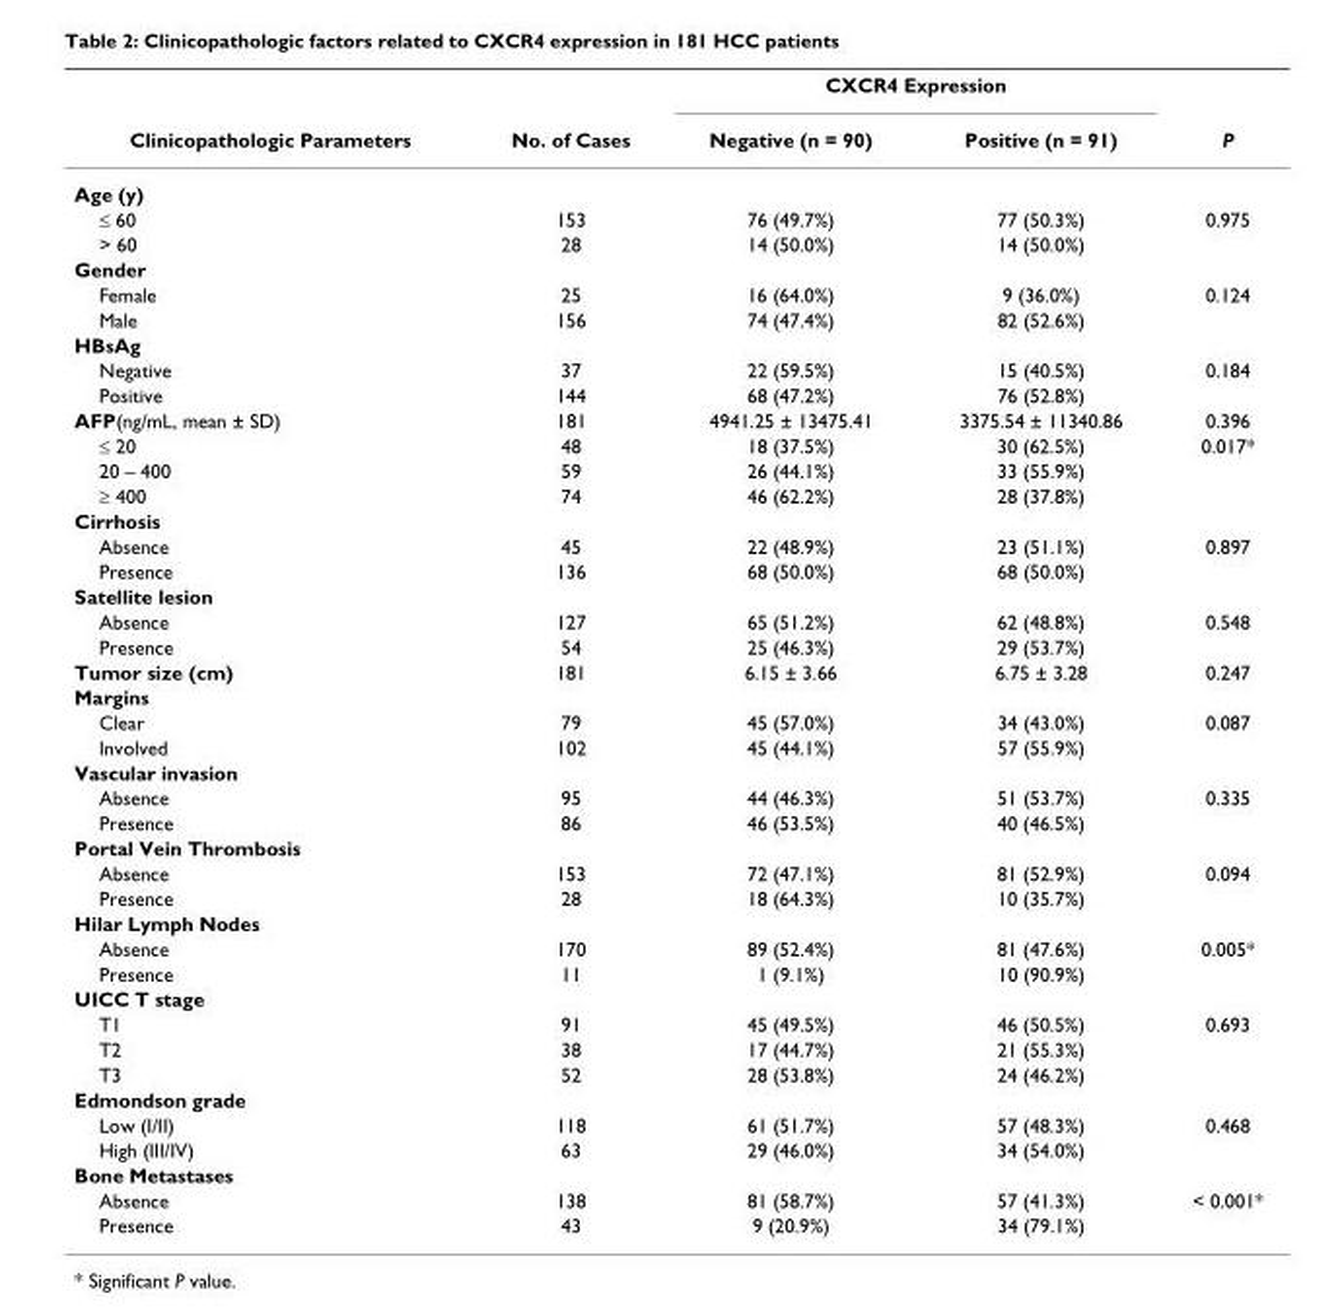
<table><thead><tr><td rowspan="2">Clinicopathologic Parameters</td><td rowspan="2">No. of Cases</td><td colspan="2">CXCR4 Expression</td><td rowspan="2">P</td></tr><tr><td>Negative (n = 90)</td><td>Positive (n = 91)</td></tr></thead><tbody><tr><td colspan="5">Age (y)</td></tr><tr><td>≤ 60</td><td>153</td><td>76 (49.7%)</td><td>77 (50.3%)</td><td>0.975</td></tr><tr><td>&gt; 60</td><td>28</td><td>14 (50.0%)</td><td>14 (50.0%)</td><td></td></tr><tr><td colspan="5">Gender</td></tr><tr><td>Female</td><td>25</td><td>16 (64.0%)</td><td>9 (36.0%)</td><td>0.124</td></tr><tr><td>Male</td><td>156</td><td>74 (47.4%)</td><td>82 (52.6%)</td><td></td></tr><tr><td colspan="5">HBsAg</td></tr><tr><td>Negative</td><td>37</td><td>22 (59.5%)</td><td>15 (40.5%)</td><td>0.184</td></tr><tr><td>Positive</td><td>144</td><td>68 (47.2%)</td><td>76 (52.8%)</td><td></td></tr><tr><td>AFP(ng/mL, mean ± SD)</td><td>181</td><td>4941.25 ± 13475.41</td><td>3375.54 ± 11340.86</td><td>0.396</td></tr><tr><td>≤ 20</td><td>48</td><td>18 (37.5%)</td><td>30 (62.5%)</td><td>0.017*</td></tr><tr><td>20 – 400</td><td>59</td><td>26 (44.1%)</td><td>33 (55.9%)</td><td></td></tr><tr><td>≥ 400</td><td>74</td><td>46 (62.2%)</td><td>28 (37.8%)</td><td></td></tr><tr><td colspan="5">Cirrhosis</td></tr><tr><td>Absence</td><td>45</td><td>22 (48.9%)</td><td>23 (51.1%)</td><td>0.897</td></tr><tr><td>Presence</td><td>136</td><td>68 (50.0%)</td><td>68 (50.0%)</td><td></td></tr><tr><td colspan="5">Satellite lesion</td></tr><tr><td>Absence</td><td>127</td><td>65 (51.2%)</td><td>62 (48.8%)</td><td>0.548</td></tr><tr><td>Presence</td><td>54</td><td>25 (46.3%)</td><td>29 (53.7%)</td><td></td></tr><tr><td>Tumor size (cm)</td><td>181</td><td>6.15 ± 3.66</td><td>6.75 ± 3.28</td><td>0.247</td></tr><tr><td colspan="5">Margins</td></tr><tr><td>Clear</td><td>79</td><td>45 (57.0%)</td><td>34 (43.0%)</td><td>0.087</td></tr><tr><td>Involved</td><td>102</td><td>45 (44.1%)</td><td>57 (55.9%)</td><td></td></tr><tr><td colspan="5">Vascular invasion</td></tr><tr><td>Absence</td><td>95</td><td>44 (46.3%)</td><td>51 (53.7%)</td><td>0.335</td></tr><tr><td>Presence</td><td>86</td><td>46 (53.5%)</td><td>40 (46.5%)</td><td></td></tr><tr><td colspan="5">Portal Vein Thrombosis</td></tr><tr><td>Absence</td><td>153</td><td>72 (47.1%)</td><td>81 (52.9%)</td><td>0.094</td></tr><tr><td>Presence</td><td>28</td><td>18 (64.3%)</td><td>10 (35.7%)</td><td></td></tr><tr><td colspan="5">Hilar Lymph Nodes</td></tr><tr><td>Absence</td><td>170</td><td>89 (52.4%)</td><td>81 (47.6%)</td><td>0.005*</td></tr><tr><td>Presence</td><td>11</td><td>1 (9.1%)</td><td>10 (90.9%)</td><td></td></tr><tr><td colspan="5">UICC T stage</td></tr><tr><td>T1</td><td>91</td><td>45 (49.5%)</td><td>46 (50.5%)</td><td>0.693</td></tr><tr><td>T2</td><td>38</td><td>17 (44.7%)</td><td>21 (55.3%)</td><td></td></tr><tr><td>T3</td><td>52</td><td>28 (53.8%)</td><td>24 (46.2%)</td><td></td></tr><tr><td colspan="5">Edmondson grade</td></tr><tr><td>Low (I/II)</td><td>118</td><td>61 (51.7%)</td><td>57 (48.3%)</td><td>0.468</td></tr><tr><td>High (III/IV)</td><td>63</td><td>29 (46.0%)</td><td>34 (54.0%)</td><td></td></tr><tr><td colspan="5">Bone Metastases</td></tr><tr><td>Absence</td><td>138</td><td>81 (58.7%)</td><td>57 (41.3%)</td><td>&lt; 0.001*</td></tr><tr><td>Presence</td><td>43</td><td>9 (20.9%)</td><td>34 (79.1%)</td><td></td></tr></tbody></table>